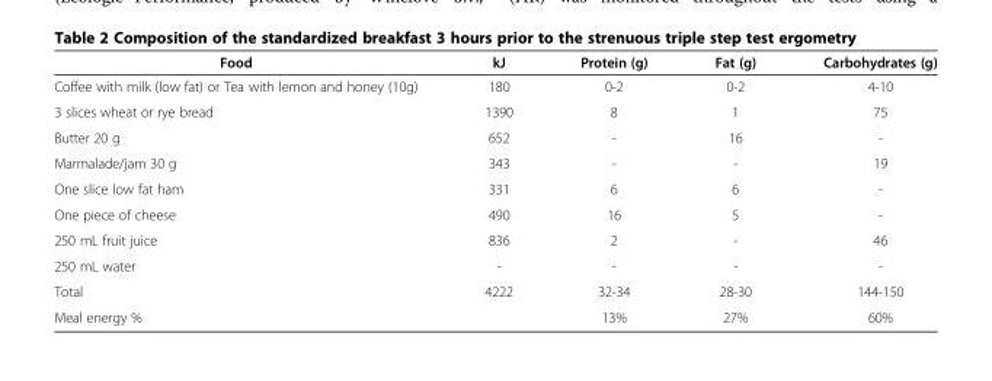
<table><thead><tr><td>Food</td><td>kJ</td><td>Protein (g)</td><td>Fat (g)</td><td>Carbohydrates (g)</td></tr></thead><tbody><tr><td>Coffee with milk (low fat) or Tea with lemon and honey (10g)</td><td>180</td><td>0-2</td><td>0-2</td><td>4-10</td></tr><tr><td>3 slices wheat or rye bread</td><td>1390</td><td>8</td><td>1</td><td>75</td></tr><tr><td>Butter 20 g</td><td>652</td><td>-</td><td>16</td><td>-</td></tr><tr><td>Marmalade/jam 30 g</td><td>343</td><td>-</td><td>-</td><td>19</td></tr><tr><td>One slice low fat ham</td><td>331</td><td>6</td><td>6</td><td>-</td></tr><tr><td>One piece of cheese</td><td>490</td><td>16</td><td>5</td><td>-</td></tr><tr><td>250 mL fruit juice</td><td>836</td><td>2</td><td>-</td><td>46</td></tr><tr><td>250 mL water</td><td>-</td><td>-</td><td>-</td><td>-</td></tr><tr><td>Total</td><td>4222</td><td>32-34</td><td>28-30</td><td>144-150</td></tr><tr><td>Meal energy %</td><td></td><td>13%</td><td>27%</td><td>60%</td></tr></tbody></table>